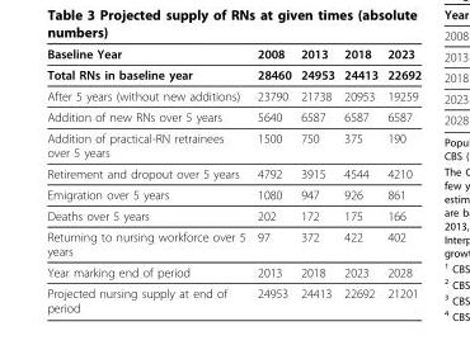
<table><thead><tr><td>Baseline Year</td><td>2008</td><td>2013</td><td>2018</td><td>2023</td></tr></thead><tbody><tr><td>Total RNs in baseline year</td><td>28460</td><td>24953</td><td>24413</td><td>22692</td></tr><tr><td>After 5 years (without new additions)</td><td>23790</td><td>21738</td><td>20953</td><td>19259</td></tr><tr><td>Addition of new RNs over 5 years</td><td>5640</td><td>6587</td><td>6587</td><td>6587</td></tr><tr><td>Addition of practical-RN retrainees over 5 years</td><td>1500</td><td>750</td><td>375</td><td>190</td></tr><tr><td>Retirement and dropout over 5 years</td><td>4792</td><td>3915</td><td>4544</td><td>4210</td></tr><tr><td>Emigration over 5 years</td><td>1080</td><td>947</td><td>926</td><td>861</td></tr><tr><td>Deaths over 5 years</td><td>202</td><td>172</td><td>175</td><td>166</td></tr><tr><td>Returning to nursing workforce over 5 years</td><td>97</td><td>372</td><td>422</td><td>402</td></tr><tr><td>Year marking end of period</td><td>2013</td><td>2018</td><td>2023</td><td>2028</td></tr><tr><td>Projected nursing supply at end of period</td><td>24953</td><td>24413</td><td>22692</td><td>21201</td></tr></tbody></table>